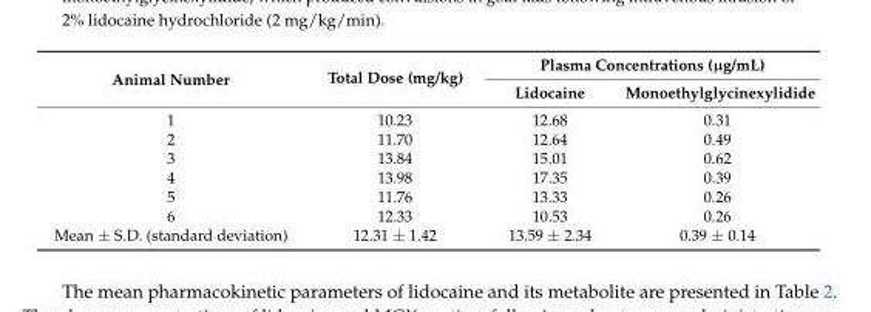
<table><thead><tr><td rowspan="2">Animal Number</td><td rowspan="2">Total Dose (mg/kg)</td><td colspan="2">Plasma Concentrations (µg/mL)</td></tr><tr><td>Lidocaine</td><td>Monoethylglycinexylidide</td></tr></thead><tbody><tr><td>1</td><td>10.23</td><td>12.68</td><td>0.31</td></tr><tr><td>2</td><td>11.70</td><td>12.64</td><td>0.49</td></tr><tr><td>3</td><td>13.84</td><td>15.01</td><td>0.62</td></tr><tr><td>4</td><td>13.98</td><td>17.35</td><td>0.39</td></tr><tr><td>5</td><td>11.76</td><td>13.33</td><td>0.26</td></tr><tr><td>6</td><td>12.33</td><td>10.53</td><td>0.26</td></tr><tr><td>Mean ± S.D. (standard deviation)</td><td>12.31 ± 1.42</td><td>13.59 ± 2.34</td><td>0.39 ± 0.14</td></tr></tbody></table>